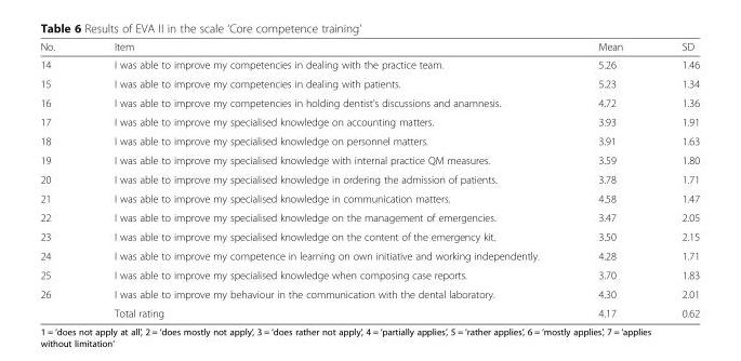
<table><thead><tr><td>No.</td><td>Item</td><td>Mean</td><td>SD</td></tr></thead><tbody><tr><td>14</td><td>I was able to improve my competencies in dealing with the practice team.</td><td>5.26</td><td>1.46</td></tr><tr><td>15</td><td>I was able to improve my competencies in dealing with patients.</td><td>5.23</td><td>1.34</td></tr><tr><td>16</td><td>I was able to improve my competencies in holding dentist’s discussions and anamnesis.</td><td>4.72</td><td>1.36</td></tr><tr><td>17</td><td>I was able to improve my specialised knowledge on accounting matters.</td><td>3.93</td><td>1.91</td></tr><tr><td>18</td><td>I was able to improve my specialised knowledge on personnel matters.</td><td>3.91</td><td>1.63</td></tr><tr><td>19</td><td>I was able to improve my specialised knowledge with internal practice QM measures.</td><td>3.59</td><td>1.80</td></tr><tr><td>20</td><td>I was able to improve my specialised knowledge in ordering the admission of patients.</td><td>3.78</td><td>1.71</td></tr><tr><td>21</td><td>I was able to improve my specialised knowledge in communication matters.</td><td>4.58</td><td>1.47</td></tr><tr><td>22</td><td>I was able to improve my specialised knowledge on the management of emergencies.</td><td>3.47</td><td>2.05</td></tr><tr><td>23</td><td>I was able to improve my specialised knowledge on the content of the emergency kit.</td><td>3.50</td><td>2.15</td></tr><tr><td>24</td><td>I was able to improve my competence in learning on own initiative and working independently.</td><td>4.28</td><td>1.71</td></tr><tr><td>25</td><td>I was able to improve my specialised knowledge when composing case reports.</td><td>3.70</td><td>1.83</td></tr><tr><td rowspan="2">26</td><td>I was able to improve my behaviour in the communication with the dental laboratory.</td><td>4.30</td><td>2.01</td></tr><tr><td>Total rating</td><td>4.17</td><td>0.62</td></tr></tbody></table>